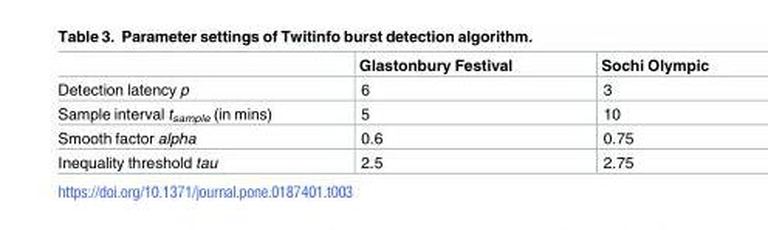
<table><thead><tr><td></td><td>Glastonbury Festival</td><td>Sochi Olympic</td></tr></thead><tbody><tr><td>Detection latency p</td><td>6</td><td>3</td></tr><tr><td>Sample interval t<sub>sample</sub> (in mins)</td><td>5</td><td>10</td></tr><tr><td>Smooth factor alpha</td><td>0.6</td><td>0.75</td></tr><tr><td>Inequality threshold tau</td><td>2.5</td><td>2.75</td></tr></tbody></table>